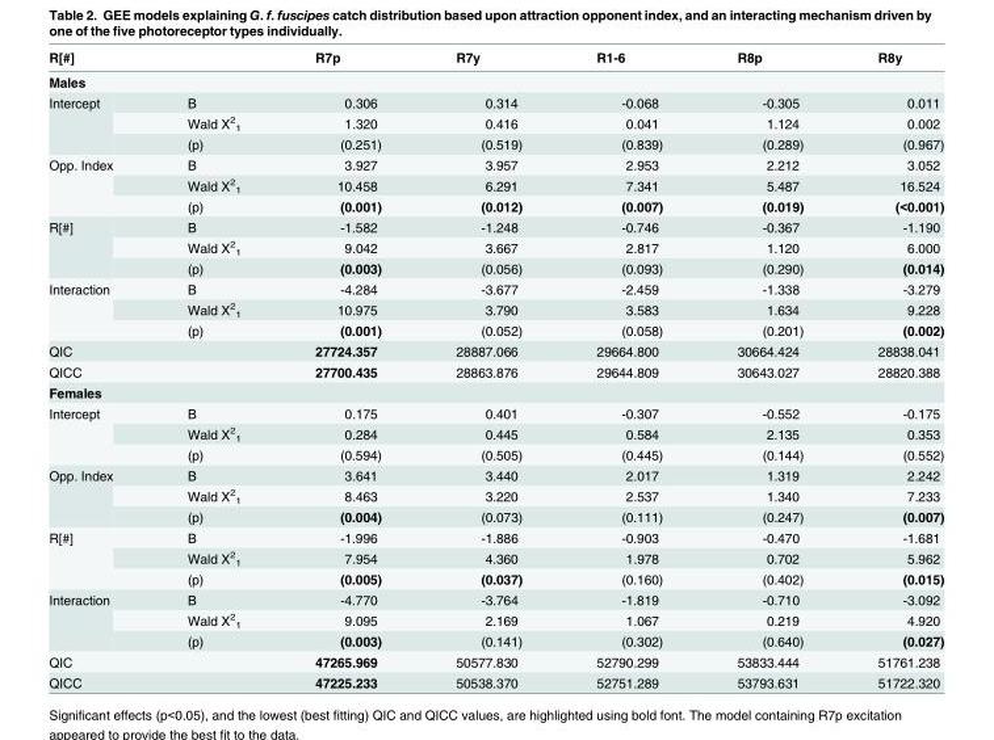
<table><thead><tr><td>R[#]</td><td></td><td>R7p</td><td>R7y</td><td>R1-6</td><td>R8p</td><td>R8y</td></tr></thead><tbody><tr><td colspan="7">Males</td></tr><tr><td rowspan="3">Intercept</td><td>B</td><td>0.306</td><td>0.314</td><td>-0.068</td><td>-0.305</td><td>0.011</td></tr><tr><td>Wald X<sup>2</sup> <sub>1</sub></td><td>1.320</td><td>0.416</td><td>0.041</td><td>1.124</td><td>0.002</td></tr><tr><td>(p)</td><td>(0.251)</td><td>(0.519)</td><td>(0.839)</td><td>(0.289)</td><td>(0.967)</td></tr><tr><td rowspan="3">Opp. Index</td><td>B</td><td>3.927</td><td>3.957</td><td>2.953</td><td>2.212</td><td>3.052</td></tr><tr><td>Wald X<sup>2</sup> <sub>1</sub></td><td>10.458</td><td>6.291</td><td>7.341</td><td>5.487</td><td>16.524</td></tr><tr><td>(p)</td><td>(0.001)</td><td>(0.012)</td><td>(0.007)</td><td>(0.019)</td><td>(&lt;0.001)</td></tr><tr><td rowspan="3">R[#]</td><td>B</td><td>-1.582</td><td>-1.248</td><td>-0.746</td><td>-0.367</td><td>-1.190</td></tr><tr><td>Wald X<sup>2</sup> <sub>1</sub></td><td>9.042</td><td>3.667</td><td>2.817</td><td>1.120</td><td>6.000</td></tr><tr><td>(p)</td><td>(0.003)</td><td>(0.056)</td><td>(0.093)</td><td>(0.290)</td><td>(0.014)</td></tr><tr><td rowspan="3">Interaction</td><td>B</td><td>-4.284</td><td>-3.677</td><td>-2.459</td><td>-1.338</td><td>-3.279</td></tr><tr><td>Wald X<sup>2</sup> <sub>1</sub></td><td>10.975</td><td>3.790</td><td>3.583</td><td>1.634</td><td>9.228</td></tr><tr><td>(p)</td><td>(0.001)</td><td>(0.052)</td><td>(0.058)</td><td>(0.201)</td><td>(0.002)</td></tr><tr><td>QIC</td><td></td><td>27724.357</td><td>28887.066</td><td>29664.800</td><td>30664.424</td><td>28838.041</td></tr><tr><td>QICC</td><td></td><td>27700.435</td><td>28863.876</td><td>29644.809</td><td>30643.027</td><td>28820.388</td></tr><tr><td colspan="7">Females</td></tr><tr><td rowspan="3">Intercept</td><td>B</td><td>0.175</td><td>0.401</td><td>-0.307</td><td>-0.552</td><td>-0.175</td></tr><tr><td>Wald X<sup>2</sup> <sub>1</sub></td><td>0.284</td><td>0.445</td><td>0.584</td><td>2.135</td><td>0.353</td></tr><tr><td>(p)</td><td>(0.594)</td><td>(0.505)</td><td>(0.445)</td><td>(0.144)</td><td>(0.552)</td></tr><tr><td rowspan="3">Opp. Index</td><td>B</td><td>3.641</td><td>3.440</td><td>2.017</td><td>1.319</td><td>2.242</td></tr><tr><td>Wald X<sup>2</sup> <sub>1</sub></td><td>8.463</td><td>3.220</td><td>2.537</td><td>1.340</td><td>7.233</td></tr><tr><td>(p)</td><td>(0.004)</td><td>(0.073)</td><td>(0.111)</td><td>(0.247)</td><td>(0.007)</td></tr><tr><td rowspan="3">R[#]</td><td>B</td><td>-1.996</td><td>-1.886</td><td>-0.903</td><td>-0.470</td><td>-1.681</td></tr><tr><td>Wald X<sup>2</sup> <sub>1</sub></td><td>7.954</td><td>4.360</td><td>1.978</td><td>0.702</td><td>5.962</td></tr><tr><td>(p)</td><td>(0.005)</td><td>(0.037)</td><td>(0.160)</td><td>(0.402)</td><td>(0.015)</td></tr><tr><td rowspan="3">Interaction</td><td>B</td><td>-4.770</td><td>-3.764</td><td>-1.819</td><td>-0.710</td><td>-3.092</td></tr><tr><td>Wald X<sup>2</sup> <sub>1</sub></td><td>9.095</td><td>2.169</td><td>1.067</td><td>0.219</td><td>4.920</td></tr><tr><td>(p)</td><td>(0.003)</td><td>(0.141)</td><td>(0.302)</td><td>(0.640)</td><td>(0.027)</td></tr><tr><td>QIC</td><td></td><td>47265.969</td><td>50577.830</td><td>52790.299</td><td>53833.444</td><td>51761.238</td></tr><tr><td>QICC</td><td></td><td>47225.233</td><td>50538.370</td><td>52751.289</td><td>53793.631</td><td>51722.320</td></tr></tbody></table>